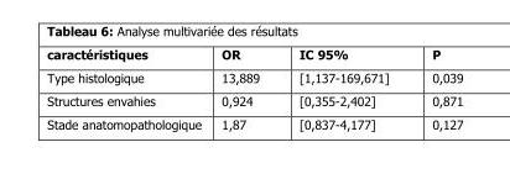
<table><thead><tr><td>caractéristiques</td><td>OR</td><td>IC 95%</td><td>P</td></tr></thead><tbody><tr><td>Type histologique</td><td>13,889</td><td>[1,137-169,671]</td><td>0,039</td></tr><tr><td>Structures envahies</td><td>0,924</td><td>[0,355-2,402]</td><td>0,871</td></tr><tr><td>Stade anatomopathologique</td><td>1,87</td><td>[0,837-4,177]</td><td>0,127</td></tr></tbody></table>